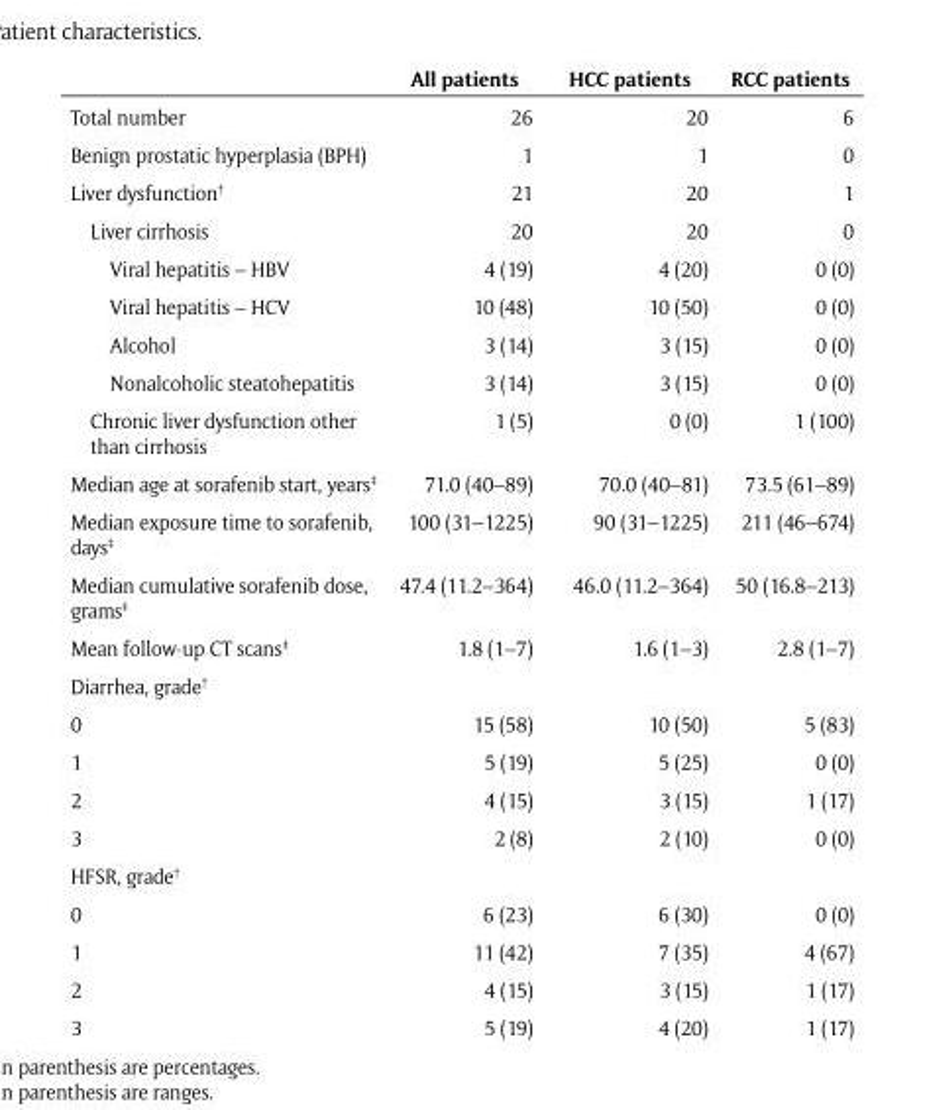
<table><thead><tr><td></td><td>All patients</td><td>HCC patients</td><td>RCC patients</td></tr></thead><tbody><tr><td>Total number</td><td>26</td><td>20</td><td>6</td></tr><tr><td>Benign prostatic hyperplasia (BPH)</td><td>1</td><td>1</td><td>0</td></tr><tr><td>Liver dysfunction<sup>†</sup></td><td>21</td><td>20</td><td>1</td></tr><tr><td>Liver cirrhosis</td><td>20</td><td>20</td><td>0</td></tr><tr><td>Viral hepatitis – HBV</td><td>4 (19)</td><td>4 (20)</td><td>0 (0)</td></tr><tr><td>Viral hepatitis – HCV</td><td>10 (48)</td><td>10 (50)</td><td>0 (0)</td></tr><tr><td>Alcohol</td><td>3 (14)</td><td>3 (15)</td><td>0 (0)</td></tr><tr><td>Nonalcoholic steatohepatitis</td><td>3 (14)</td><td>3 (15)</td><td>0 (0)</td></tr><tr><td>Chronic liver dysfunction other than cirrhosis</td><td>1 (5)</td><td>0 (0)</td><td>1 (100)</td></tr><tr><td>Median age at sorafenib start, years<sup>‡</sup></td><td>71.0 (40–89)</td><td>70.0 (40–81)</td><td>73.5 (61–89)</td></tr><tr><td>Median exposure time to sorafenib, days<sup>‡</sup></td><td>100 (31–1225)</td><td>90 (31–1225)</td><td>211 (46–674)</td></tr><tr><td>Median cumulative sorafenib dose, grams<sup>‡</sup></td><td>47.4 (11.2–364)</td><td>46.0 (11.2–364)</td><td>50 (16.8–213)</td></tr><tr><td>Mean follow-up CT scans<sup>‡</sup></td><td>1.8 (1–7)</td><td>1.6 (1–3)</td><td>2.8 (1–7)</td></tr><tr><td colspan="4">Diarrhea, grade<sup>†</sup></td></tr><tr><td>0</td><td>15 (58)</td><td>10 (50)</td><td>5 (83)</td></tr><tr><td>1</td><td>5 (19)</td><td>5 (25)</td><td>0 (0)</td></tr><tr><td>2</td><td>4 (15)</td><td>3 (15)</td><td>1 (17)</td></tr><tr><td>3</td><td>2 (8)</td><td>2 (10)</td><td>0 (0)</td></tr><tr><td colspan="4">HFSR, grade<sup>†</sup></td></tr><tr><td>0</td><td>6 (23)</td><td>6 (30)</td><td>0 (0)</td></tr><tr><td>1</td><td>11 (42)</td><td>7 (35)</td><td>4 (67)</td></tr><tr><td>2</td><td>4 (15)</td><td>3 (15)</td><td>1 (17)</td></tr><tr><td>3</td><td>5 (19)</td><td>4 (20)</td><td>1 (17)</td></tr></tbody></table>